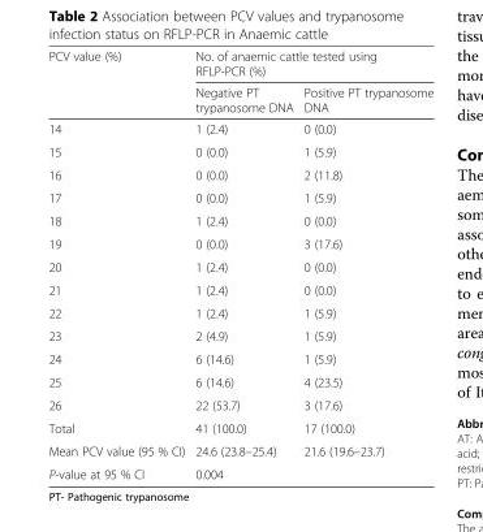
<table><thead><tr><td rowspan="2">PCV value (%)</td><td colspan="2">No. of anaemic cattle tested using RFLP-PCR (%)</td></tr><tr><td>Negative PT trypanosome DNA</td><td>Positive PT trypanosome DNA</td></tr></thead><tbody><tr><td>14</td><td>1 (2.4)</td><td>0 (0.0)</td></tr><tr><td>15</td><td>0 (0.0)</td><td>1 (5.9)</td></tr><tr><td>16</td><td>0 (0.0)</td><td>2 (11.8)</td></tr><tr><td>17</td><td>0 (0.0)</td><td>1 (5.9)</td></tr><tr><td>18</td><td>1 (2.4)</td><td>0 (0.0)</td></tr><tr><td>19</td><td>0 (0.0)</td><td>3 (17.6)</td></tr><tr><td>20</td><td>1 (2.4)</td><td>0 (0.0)</td></tr><tr><td>21</td><td>1 (2.4)</td><td>0 (0.0)</td></tr><tr><td>22</td><td>1 (2.4)</td><td>1 (5.9)</td></tr><tr><td>23</td><td>2 (4.9)</td><td>1 (5.9)</td></tr><tr><td>24</td><td>6 (14.6)</td><td>1 (5.9)</td></tr><tr><td>25</td><td>6 (14.6)</td><td>4 (23.5)</td></tr><tr><td>26</td><td>22 (53.7)</td><td>3 (17.6)</td></tr><tr><td>Total</td><td>41 (100.0)</td><td>17 (100.0)</td></tr><tr><td>Mean PCV value (95 % CI)</td><td>24.6 (23.8–25.4)</td><td>21.6 (19.6–23.7)</td></tr><tr><td>P-value at 95 % CI</td><td colspan="2">0.004</td></tr></tbody></table>